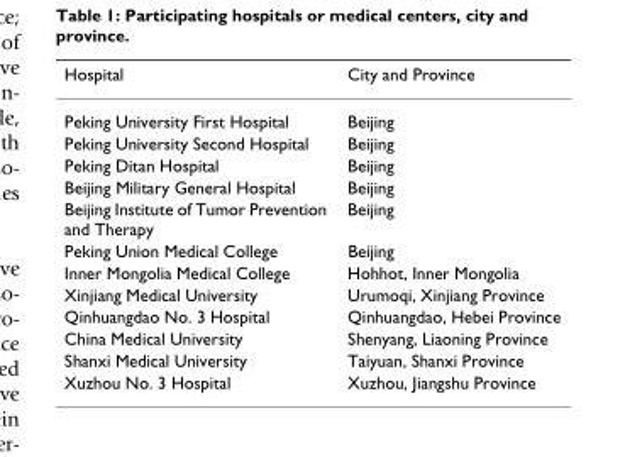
<table><thead><tr><td>Hospital</td><td>City and Province</td></tr></thead><tbody><tr><td>Peking University First Hospital</td><td>Beijing</td></tr><tr><td>Peking University Second Hospital</td><td>Beijing</td></tr><tr><td>Peking Ditan Hospital</td><td>Beijing</td></tr><tr><td>Beijing Military General Hospital</td><td>Beijing</td></tr><tr><td>Beijing Institute of Tumor Prevention and Therapy</td><td>Beijing</td></tr><tr><td>Peking Union Medical College</td><td>Beijing</td></tr><tr><td>Inner Mongolia Medical College</td><td>Hohhot, Inner Mongolia</td></tr><tr><td>Xinjiang Medical University</td><td>Urumoqi, Xinjiang Province</td></tr><tr><td>Qinhuangdao No. 3 Hospital</td><td>Qinhuangdao, Hebei Province</td></tr><tr><td>China Medical University</td><td>Shenyang, Liaoning Province</td></tr><tr><td>Shanxi Medical University</td><td>Taiyuan, Shanxi Province</td></tr><tr><td>Xuzhou No. 3 Hospital</td><td>Xuzhou, Jiangshu Province</td></tr></tbody></table>